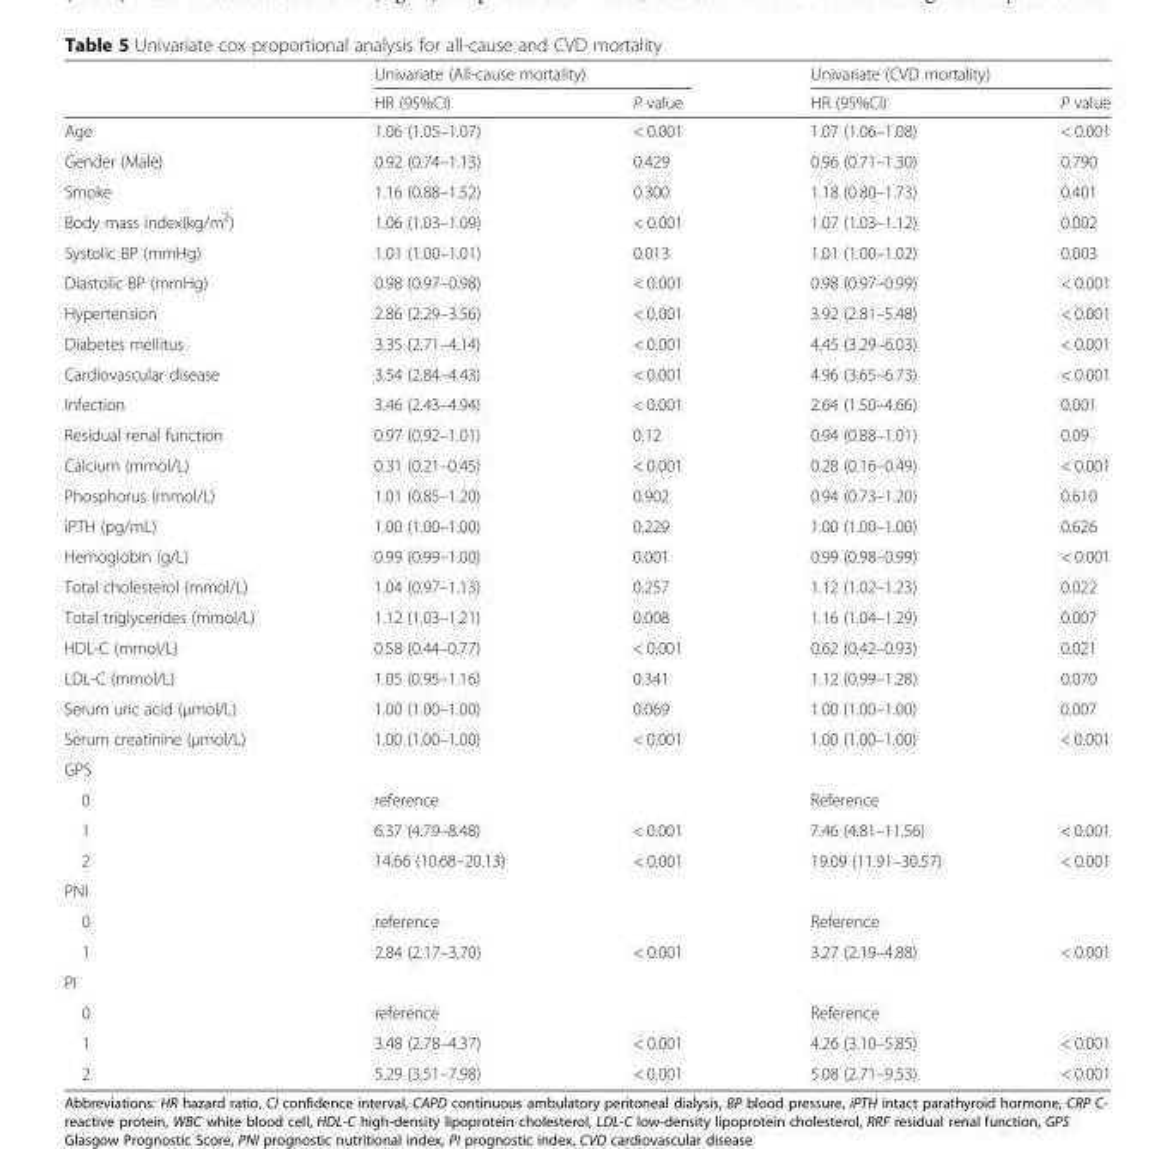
<table><thead><tr><td rowspan="2"></td><td colspan="2">Univariate (All-cause mortality)</td><td colspan="2">Univariate (CVD mortality)</td></tr><tr><td>HR (95%CI)</td><td>P value</td><td>HR (95%CI)</td><td>P value</td></tr></thead><tbody><tr><td>Age</td><td>1.06 (1.05–1.07)</td><td>&lt; 0.001</td><td>1.07 (1.06–1.08)</td><td>&lt; 0.001</td></tr><tr><td>Gender (Male)</td><td>0.92 (0.74–1.13)</td><td>0.429</td><td>0.96 (0.71–1.30)</td><td>0.790</td></tr><tr><td>Smoke</td><td>1.16 (0.88–1.52)</td><td>0.300</td><td>1.18 (0.80–1.73)</td><td>0.401</td></tr><tr><td>Body mass index(kg/m<sup>2</sup>)</td><td>1.06 (1.03–1.09)</td><td>&lt; 0.001</td><td>1.07 (1.03–1.12)</td><td>0.002</td></tr><tr><td>Systolic BP (mmHg)</td><td>1.01 (1.00–1.01)</td><td>0.013</td><td>1.01 (1.00–1.02)</td><td>0.003</td></tr><tr><td>Diastolic BP (mmHg)</td><td>0.98 (0.97–0.98)</td><td>&lt; 0.001</td><td>0.98 (0.97–0.99)</td><td>&lt; 0.001</td></tr><tr><td>Hypertension</td><td>2.86 (2.29–3.56)</td><td>&lt; 0.001</td><td>3.92 (2.81–5.48)</td><td>&lt; 0.001</td></tr><tr><td>Diabetes mellitus</td><td>3.35 (2.71–4.14)</td><td>&lt; 0.001</td><td>4.45 (3.29–6.03)</td><td>&lt; 0.001</td></tr><tr><td>Cardiovascular disease</td><td>3.54 (2.84–4.43)</td><td>&lt; 0.001</td><td>4.96 (3.65–6.73)</td><td>&lt; 0.001</td></tr><tr><td>Infection</td><td>3.46 (2.43–4.94)</td><td>&lt; 0.001</td><td>2.64 (1.50–4.66)</td><td>0.001</td></tr><tr><td>Residual renal function</td><td>0.97 (0.92–1.01)</td><td>0.12</td><td>0.94 (0.88–1.01)</td><td>0.09</td></tr><tr><td>Calcium (mmol/L)</td><td>0.31 (0.21–0.45)</td><td>&lt; 0.001</td><td>0.28 (0.16–0.49)</td><td>&lt; 0.001</td></tr><tr><td>Phosphorus (mmol/L)</td><td>1.01 (0.85–1.20)</td><td>0.902</td><td>0.94 (0.73–1.20)</td><td>0.610</td></tr><tr><td>iPTH (pg/mL)</td><td>1.00 (1.00–1.00)</td><td>0.229</td><td>1.00 (1.00–1.00)</td><td>0.626</td></tr><tr><td>Hemoglobin (g/L)</td><td>0.99 (0.99–1.00)</td><td>0.001</td><td>0.99 (0.98–0.99)</td><td>&lt; 0.001</td></tr><tr><td>Total cholesterol (mmol/L)</td><td>1.04 (0.97–1.13)</td><td>0.257</td><td>1.12 (1.02–1.23)</td><td>0.022</td></tr><tr><td>Total triglycerides (mmol/L)</td><td>1.12 (1.03–1.21)</td><td>0.008</td><td>1.16 (1.04–1.29)</td><td>0.007</td></tr><tr><td>HDL-C (mmol/L)</td><td>0.58 (0.44–0.77)</td><td>&lt; 0.001</td><td>0.62 (0.42–0.93)</td><td>0.021</td></tr><tr><td>LDL-C (mmol/L)</td><td>1.05 (0.95–1.16)</td><td>0.341</td><td>1.12 (0.99–1.28)</td><td>0.070</td></tr><tr><td>Serum uric acid (μmol/L)</td><td>1.00 (1.00–1.00)</td><td>0.069</td><td>1.00 (1.00–1.00)</td><td>0.007</td></tr><tr><td>Serum creatinine (μmol/L)</td><td>1.00 (1.00–1.00)</td><td>&lt; 0.001</td><td>1.00 (1.00–1.00)</td><td>&lt; 0.001</td></tr><tr><td colspan="5">GPS</td></tr><tr><td>0</td><td>reference</td><td></td><td>Reference</td><td></td></tr><tr><td>1</td><td>6.37 (4.79–8.48)</td><td>&lt; 0.001</td><td>7.46 (4.81–11.56)</td><td>&lt; 0.001</td></tr><tr><td>2</td><td>14.66 (10.68–20.13)</td><td>&lt; 0.001</td><td>19.09 (11.91–30.57)</td><td>&lt; 0.001</td></tr><tr><td colspan="5">PNI</td></tr><tr><td>0</td><td>reference</td><td></td><td>Reference</td><td></td></tr><tr><td>1</td><td>2.84 (2.17–3.70)</td><td>&lt; 0.001</td><td>3.27 (2.19–4.88)</td><td>&lt; 0.001</td></tr><tr><td colspan="5">PI</td></tr><tr><td>0</td><td>reference</td><td></td><td>Reference</td><td></td></tr><tr><td>1</td><td>3.48 (2.78–4.37)</td><td>&lt; 0.001</td><td>4.26 (3.10–5.85)</td><td>&lt; 0.001</td></tr><tr><td>2</td><td>5.29 (3.51–7.98)</td><td>&lt; 0.001</td><td>5.08 (2.71–9.53)</td><td>&lt; 0.001</td></tr></tbody></table>